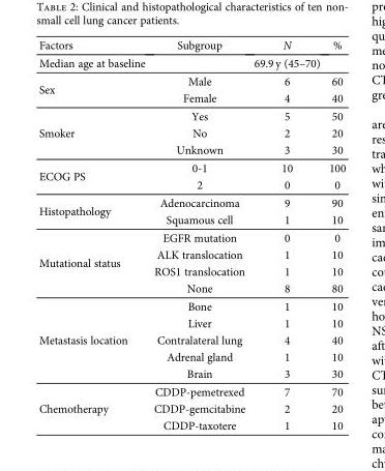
<table><thead><tr><td>Factors</td><td>Subgroup</td><td>N</td><td>%</td></tr></thead><tbody><tr><td>Median age at baseline</td><td></td><td>69.9 y (45–70)</td><td></td></tr><tr><td rowspan="2">Sex</td><td>Male</td><td>6</td><td>60</td></tr><tr><td>Female</td><td>4</td><td>40</td></tr><tr><td rowspan="3">Smoker</td><td>Yes</td><td>5</td><td>50</td></tr><tr><td>No</td><td>2</td><td>20</td></tr><tr><td>Unknown</td><td>3</td><td>30</td></tr><tr><td rowspan="2">ECOG PS</td><td>0-1</td><td>10</td><td>100</td></tr><tr><td>2</td><td>0</td><td>0</td></tr><tr><td rowspan="2">Histopathology</td><td>Adenocarcinoma</td><td>9</td><td>90</td></tr><tr><td>Squamous cell</td><td>1</td><td>10</td></tr><tr><td rowspan="4">Mutational status</td><td>EGFR mutation</td><td>0</td><td>0</td></tr><tr><td>ALK translocation</td><td>1</td><td>10</td></tr><tr><td>ROS1 translocation</td><td>1</td><td>10</td></tr><tr><td>None</td><td>8</td><td>80</td></tr><tr><td rowspan="5">Metastasis location</td><td>Bone</td><td>1</td><td>10</td></tr><tr><td>Liver</td><td>1</td><td>10</td></tr><tr><td>Contralateral lung</td><td>4</td><td>40</td></tr><tr><td>Adrenal gland</td><td>1</td><td>10</td></tr><tr><td>Brain</td><td>3</td><td>30</td></tr><tr><td rowspan="3">Chemotherapy</td><td>CDDP-pemetrexed</td><td>7</td><td>70</td></tr><tr><td>CDDP-gemcitabine</td><td>2</td><td>20</td></tr><tr><td>CDDP-taxotere</td><td>1</td><td>10</td></tr></tbody></table>